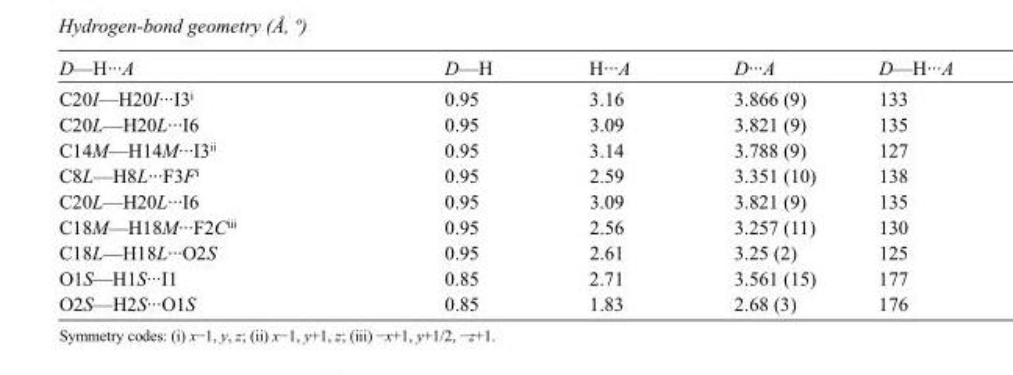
<table><tbody><tr><td>D—H···A</td><td>D—H</td><td>H···A</td><td>D···A</td><td>D—H···A</td></tr><tr><td>C20I—H20I···I3<sup>i</sup></td><td>0.95</td><td>3.16</td><td>3.866 (9)</td><td>133</td></tr><tr><td>C20L—H20L···I6</td><td>0.95</td><td>3.09</td><td>3.821 (9)</td><td>135</td></tr><tr><td>C14M—H14M···I3<sup>ii</sup></td><td>0.95</td><td>3.14</td><td>3.788 (9)</td><td>127</td></tr><tr><td>C8L—H8L···F3F<sup>i</sup></td><td>0.95</td><td>2.59</td><td>3.351 (10)</td><td>138</td></tr><tr><td>C20L—H20L···I6</td><td>0.95</td><td>3.09</td><td>3.821 (9)</td><td>135</td></tr><tr><td>C18M—H18M···F2C<sup>iii</sup></td><td>0.95</td><td>2.56</td><td>3.257 (11)</td><td>130</td></tr><tr><td>C18L—H18L···O2S</td><td>0.95</td><td>2.61</td><td>3.25 (2)</td><td>125</td></tr><tr><td>O1S—H1S···I1</td><td>0.85</td><td>2.71</td><td>3.561 (15)</td><td>177</td></tr><tr><td>O2S—H2S···O1S</td><td>0.85</td><td>1.83</td><td>2.68 (3)</td><td>176</td></tr></tbody></table>